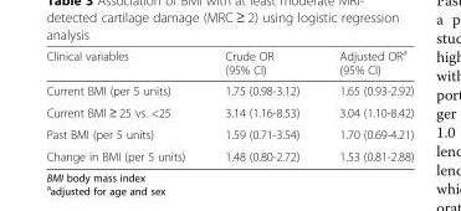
<table><thead><tr><td>Clinical variables</td><td>Crude OR (95% CI)</td><td>Adjusted OR<sup>a</sup> (95% CI)</td></tr></thead><tbody><tr><td>Current BMI (per 5 units)</td><td>1.75 (0.98-3.12)</td><td>1.65 (0.93-2.92)</td></tr><tr><td>Current BMI ≥ 25 vs. &lt;25</td><td>3.14 (1.16-8.53)</td><td>3.04 (1.10-8.42)</td></tr><tr><td>Past BMI (per 5 units)</td><td>1.59 (0.71-3.54)</td><td>1.70 (0.69-4.21)</td></tr><tr><td>Change in BMI (per 5 units)</td><td>1.48 (0.80-2.72)</td><td>1.53 (0.81-2.88)</td></tr></tbody></table>